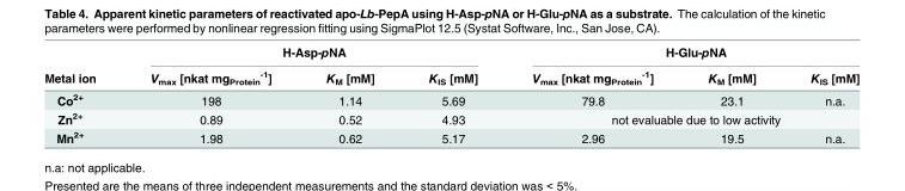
<table><thead><tr><td rowspan="2">Metal ion</td><td colspan="3">H-Asp-pNA</td><td colspan="3">H-Glu-pNA</td></tr><tr><td>V<sub>max</sub> [nkat mg<sub>Protein</sub> <sup>-1</sup>]</td><td>K<sub>M</sub> [mM]</td><td>K<sub>IS</sub> [mM]</td><td>V<sub>max</sub> [nkat mg<sub>Protein</sub> <sup>-1</sup>]</td><td>K<sub>M</sub> [mM]</td><td>K<sub>IS</sub> [mM]</td></tr></thead><tbody><tr><td>Co<sup>2+</sup></td><td>198</td><td>1.14</td><td>5.69</td><td>79.8</td><td>23.1</td><td>n.a.</td></tr><tr><td>Zn<sup>2+</sup></td><td>0.89</td><td>0.52</td><td>4.93</td><td colspan="3">not evaluable due to low activity</td></tr><tr><td>Mn<sup>2+</sup></td><td>1.98</td><td>0.62</td><td>5.17</td><td>2.96</td><td>19.5</td><td>n.a.</td></tr></tbody></table>